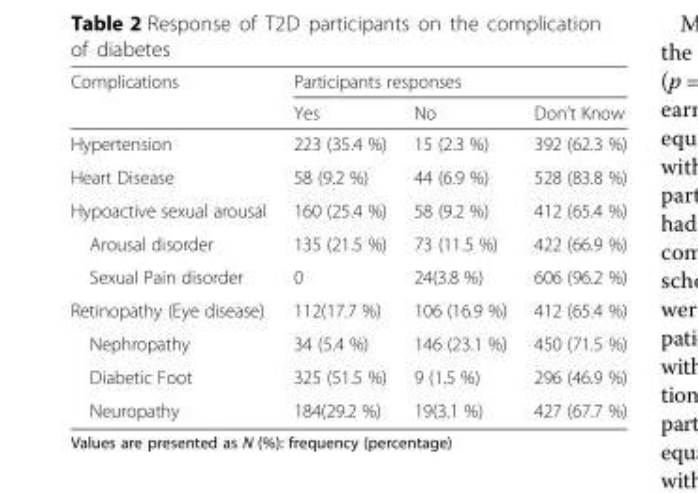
<table><thead><tr><td rowspan="2">Complications</td><td colspan="3">Participants responses</td></tr><tr><td>Yes</td><td>No</td><td>Don’t Know</td></tr></thead><tbody><tr><td>Hypertension</td><td>223 (35.4 %)</td><td>15 (2.3 %)</td><td>392 (62.3 %)</td></tr><tr><td>Heart Disease</td><td>58 (9.2 %)</td><td>44 (6.9 %)</td><td>528 (83.8 %)</td></tr><tr><td>Hypoactive sexual arousal</td><td>160 (25.4 %)</td><td>58 (9.2 %)</td><td>412 (65.4 %)</td></tr><tr><td>Arousal disorder</td><td>135 (21.5 %)</td><td>73 (11.5 %)</td><td>422 (66.9 %)</td></tr><tr><td>Sexual Pain disorder</td><td>0</td><td>24(3.8 %)</td><td>606 (96.2 %)</td></tr><tr><td>Retinopathy (Eye disease)</td><td>112(17.7 %)</td><td>106 (16.9 %)</td><td>412 (65.4 %)</td></tr><tr><td>Nephropathy</td><td>34 (5.4 %)</td><td>146 (23.1 %)</td><td>450 (71.5 %)</td></tr><tr><td>Diabetic Foot</td><td>325 (51.5 %)</td><td>9 (1.5 %)</td><td>296 (46.9 %)</td></tr><tr><td>Neuropathy</td><td>184(29.2 %)</td><td>19(3.1 %)</td><td>427 (67.7 %)</td></tr></tbody></table>